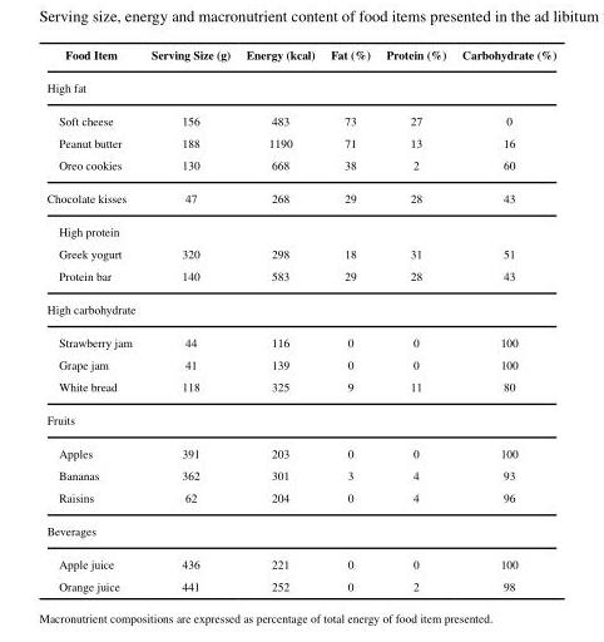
<table><thead><tr><td>Food Item</td><td>Serving Size (g)</td><td>Energy (kcal)</td><td>Fat (%)</td><td>Protein (%)</td><td>Carbohydrate (%)</td></tr></thead><tbody><tr><td colspan="6">High fat</td></tr><tr><td>Soft cheese</td><td>156</td><td>483</td><td>73</td><td>27</td><td>0</td></tr><tr><td>Peanut butter</td><td>188</td><td>1190</td><td>71</td><td>13</td><td>16</td></tr><tr><td>Oreo cookies</td><td>130</td><td>668</td><td>38</td><td>2</td><td>60</td></tr><tr><td>Chocolate kisses</td><td>47</td><td>268</td><td>29</td><td>28</td><td>43</td></tr><tr><td colspan="6">High protein</td></tr><tr><td>Greek yogurt</td><td>320</td><td>298</td><td>18</td><td>31</td><td>51</td></tr><tr><td>Protein bar</td><td>140</td><td>583</td><td>29</td><td>28</td><td>43</td></tr><tr><td colspan="6">High carbohydrate</td></tr><tr><td>Strawberry jam</td><td>44</td><td>116</td><td>0</td><td>0</td><td>100</td></tr><tr><td>Grape jam</td><td>41</td><td>139</td><td>0</td><td>0</td><td>100</td></tr><tr><td>White bread</td><td>118</td><td>325</td><td>9</td><td>11</td><td>80</td></tr><tr><td colspan="6">Fruits</td></tr><tr><td>Apples</td><td>391</td><td>203</td><td>0</td><td>0</td><td>100</td></tr><tr><td>Bananas</td><td>362</td><td>301</td><td>3</td><td>4</td><td>93</td></tr><tr><td>Raisins</td><td>62</td><td>204</td><td>0</td><td>4</td><td>96</td></tr><tr><td colspan="6">Beverages</td></tr><tr><td>Apple juice</td><td>436</td><td>221</td><td>0</td><td>0</td><td>100</td></tr><tr><td>Orange juice</td><td>441</td><td>252</td><td>0</td><td>2</td><td>98</td></tr></tbody></table>